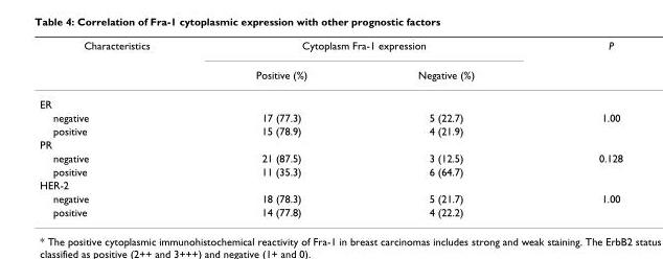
<table><thead><tr><td rowspan="2">Characteristics</td><td colspan="2">Cytoplasm Fra-1 expression</td><td rowspan="2">P</td></tr><tr><td>Positive (%)</td><td>Negative (%)</td></tr></thead><tbody><tr><td colspan="4">ER</td></tr><tr><td>negative</td><td>17 (77.3)</td><td>5 (22.7)</td><td>1.00</td></tr><tr><td>positive</td><td>15 (78.9)</td><td>4 (21.9)</td><td></td></tr><tr><td colspan="4">PR</td></tr><tr><td>negative</td><td>21 (87.5)</td><td>3 (12.5)</td><td>0.128</td></tr><tr><td>positive</td><td>11 (35.3)</td><td>6 (64.7)</td><td></td></tr><tr><td colspan="4">HER-2</td></tr><tr><td>negative</td><td>18 (78.3)</td><td>5 (21.7)</td><td>1.00</td></tr><tr><td>positive</td><td>14 (77.8)</td><td>4 (22.2)</td><td></td></tr></tbody></table>